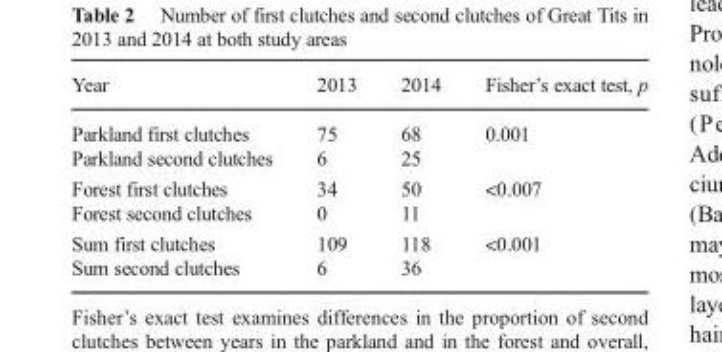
<table><thead><tr><td>Year</td><td>2013</td><td>2014</td><td>Fisher’s exact test, p</td></tr></thead><tbody><tr><td>Parkland first clutches</td><td>75</td><td>68</td><td rowspan="2">0.001</td></tr><tr><td>Parkland second clutches</td><td>6</td><td>25</td></tr><tr><td>Forest first clutches</td><td>34</td><td>50</td><td rowspan="2">&lt;0.007</td></tr><tr><td>Forest second clutches</td><td>0</td><td>11</td></tr><tr><td>Sum first clutches</td><td>109</td><td>118</td><td rowspan="2">&lt;0.001</td></tr><tr><td>Sum second clutches</td><td>6</td><td>36</td></tr></tbody></table>